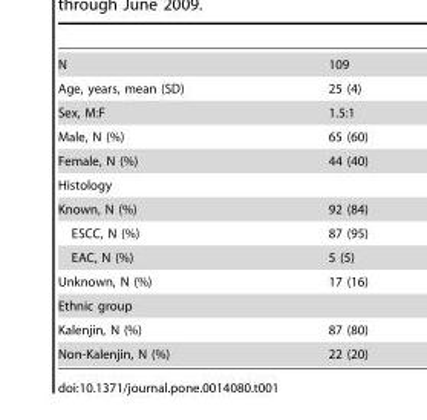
<table><tbody><tr><td>N</td><td>109</td></tr><tr><td>Age, years, mean (SD)</td><td>25 (4)</td></tr><tr><td>Sex, M:F</td><td>1.5:1</td></tr><tr><td>Male, N (%)</td><td>65 (60)</td></tr><tr><td>Female, N (%)</td><td>44 (40)</td></tr><tr><td colspan="2">Histology</td></tr><tr><td>Known, N (%)</td><td>92 (84)</td></tr><tr><td>ESCC, N (%)</td><td>87 (95)</td></tr><tr><td>EAC, N (%)</td><td>5 (5)</td></tr><tr><td>Unknown, N (%)</td><td>17 (16)</td></tr><tr><td colspan="2">Ethnic group</td></tr><tr><td>Kalenjin, N (%)</td><td>87 (80)</td></tr><tr><td>Non-Kalenjin, N (%)</td><td>22 (20)</td></tr></tbody></table>